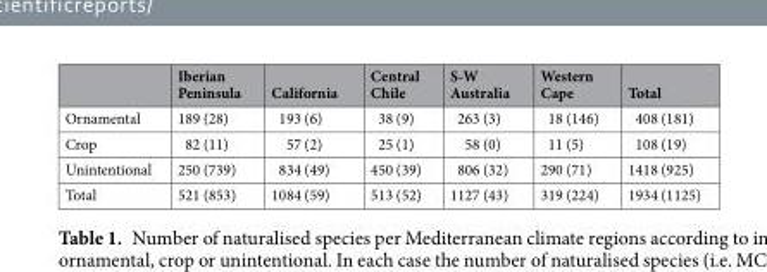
<table><thead><tr><td></td><td>Iberian Peninsula</td><td>California</td><td>Central Chile</td><td>S-W Australia</td><td>Western Cape</td><td>Total</td></tr></thead><tbody><tr><td>Ornamental</td><td>189 (28)</td><td>193 (6)</td><td>38 (9)</td><td>263 (3)</td><td>18 (146)</td><td>408 (181)</td></tr><tr><td>Crop</td><td>82 (11)</td><td>57 (2)</td><td>25 (1)</td><td>58 (0)</td><td>11 (5)</td><td>108 (19)</td></tr><tr><td>Unintentional</td><td>250 (739)</td><td>834 (49)</td><td>450 (39)</td><td>806 (32)</td><td>290 (71)</td><td>1418 (925)</td></tr><tr><td>Total</td><td>521 (853)</td><td>1084 (59)</td><td>513 (52)</td><td>1127 (43)</td><td>319 (224)</td><td>1934 (1125)</td></tr></tbody></table>